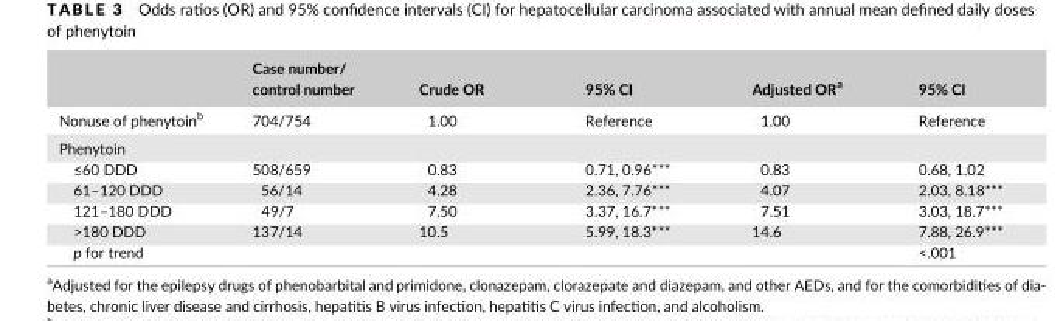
<table><thead><tr><td></td><td>Case number/ control number</td><td>Crude OR</td><td>95% CI</td><td>Adjusted OR<sup>a</sup></td><td>95% CI</td></tr></thead><tbody><tr><td>Nonuse of phenytoin<sup>b</sup></td><td>704/754</td><td>1.00</td><td>Reference</td><td>1.00</td><td>Reference</td></tr><tr><td colspan="6">Phenytoin</td></tr><tr><td>≤60 DDD</td><td>508/659</td><td>0.83</td><td>0.71, 0.96***</td><td>0.83</td><td>0.68, 1.02</td></tr><tr><td>61–120 DDD</td><td>56/14</td><td>4.28</td><td>2.36, 7.76***</td><td>4.07</td><td>2.03, 8.18***</td></tr><tr><td>121–180 DDD</td><td>49/7</td><td>7.50</td><td>3.37, 16.7***</td><td>7.51</td><td>3.03, 18.7***</td></tr><tr><td>&gt;180 DDD</td><td>137/14</td><td>10.5</td><td>5.99, 18.3***</td><td>14.6</td><td>7.88, 26.9***</td></tr><tr><td>p for trend</td><td></td><td></td><td></td><td></td><td>&lt;.001</td></tr></tbody></table>